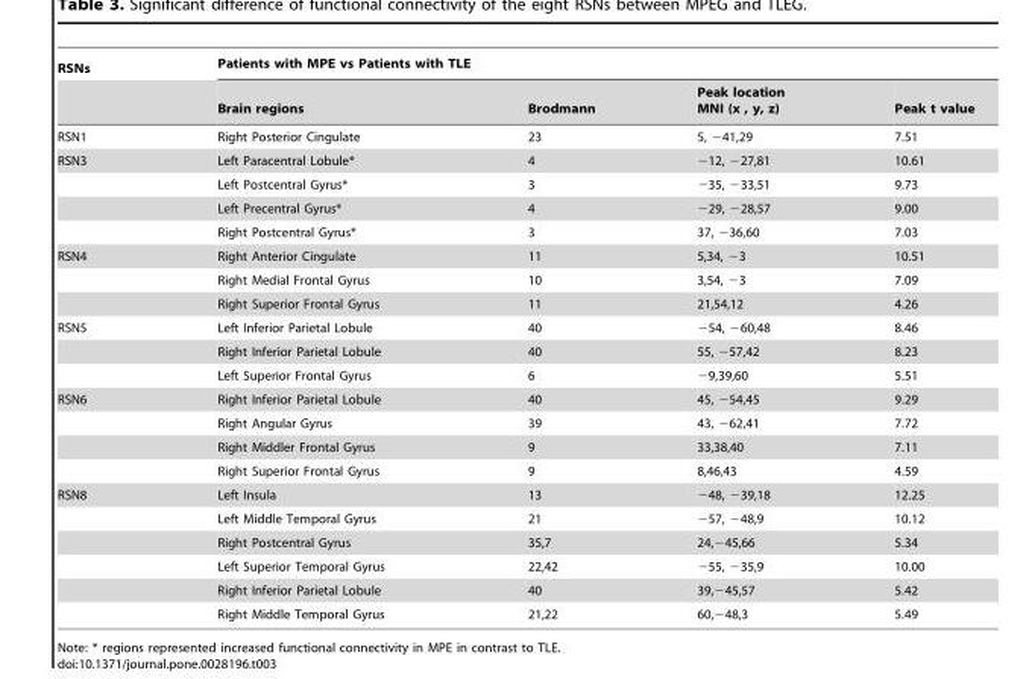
<table><thead><tr><td rowspan="2">RSNs</td><td colspan="4">Patients with MPE vs Patients with TLE</td></tr><tr><td>Brain regions</td><td>Brodmann</td><td>Peak location MNI (x , y, z)</td><td>Peak t value</td></tr></thead><tbody><tr><td>RSN1</td><td>Right Posterior Cingulate</td><td>23</td><td>5, −41,29</td><td>7.51</td></tr><tr><td rowspan="4">RSN3</td><td>Left Paracentral Lobule*</td><td>4</td><td>−12, −27,81</td><td>10.61</td></tr><tr><td>Left Postcentral Gyrus*</td><td>3</td><td>−35, −33,51</td><td>9.73</td></tr><tr><td>Left Precentral Gyrus*</td><td>4</td><td>−29, −28,57</td><td>9.00</td></tr><tr><td>Right Postcentral Gyrus*</td><td>3</td><td>37, −36,60</td><td>7.03</td></tr><tr><td rowspan="3">RSN4</td><td>Right Anterior Cingulate</td><td>11</td><td>5,34, −3</td><td>10.51</td></tr><tr><td>Right Medial Frontal Gyrus</td><td>10</td><td>3,54, −3</td><td>7.09</td></tr><tr><td>Right Superior Frontal Gyrus</td><td>11</td><td>21,54,12</td><td>4.26</td></tr><tr><td rowspan="3">RSN5</td><td>Left Inferior Parietal Lobule</td><td>40</td><td>−54, −60,48</td><td>8.46</td></tr><tr><td>Right Inferior Parietal Lobule</td><td>40</td><td>55, −57,42</td><td>8.23</td></tr><tr><td>Left Superior Frontal Gyrus</td><td>6</td><td>−9,39,60</td><td>5.51</td></tr><tr><td rowspan="4">RSN6</td><td>Right Inferior Parietal Lobule</td><td>40</td><td>45, −54,45</td><td>9.29</td></tr><tr><td>Right Angular Gyrus</td><td>39</td><td>43, −62,41</td><td>7.72</td></tr><tr><td>Right Middler Frontal Gyrus</td><td>9</td><td>33,38,40</td><td>7.11</td></tr><tr><td>Right Superior Frontal Gyrus</td><td>9</td><td>8,46,43</td><td>4.59</td></tr><tr><td rowspan="6">RSN8</td><td>Left Insula</td><td>13</td><td>−48, −39,18</td><td>12.25</td></tr><tr><td>Left Middle Temporal Gyrus</td><td>21</td><td>−57, −48,9</td><td>10.12</td></tr><tr><td>Right Postcentral Gyrus</td><td>35,7</td><td>24,−45,66</td><td>5.34</td></tr><tr><td>Left Superior Temporal Gyrus</td><td>22,42</td><td>−55, −35,9</td><td>10.00</td></tr><tr><td>Right Inferior Parietal Lobule</td><td>40</td><td>39,−45,57</td><td>5.42</td></tr><tr><td>Right Middle Temporal Gyrus</td><td>21,22</td><td>60,−48,3</td><td>5.49</td></tr></tbody></table>